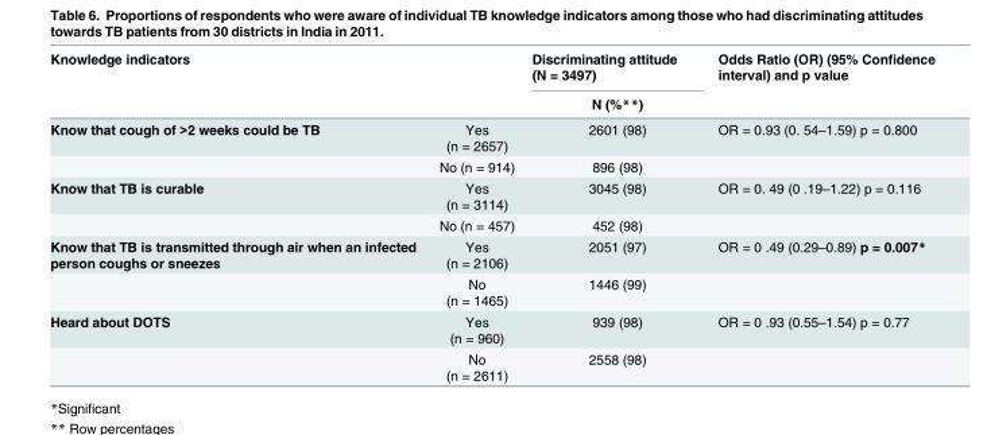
<table><thead><tr><td rowspan="2">Knowledge indicators</td><td rowspan="2"></td><td rowspan="2">Discriminating attitude (N = 3497) N (%**)</td><td rowspan="2">Odds Ratio (OR) (95% Confidence interval) and p value</td></tr><tr></tr></thead><tbody><tr><td rowspan="2">Know that cough of &gt;2 weeks could be TB</td><td>Yes (n = 2657)</td><td>2601 (98)</td><td>OR = 0.93 (0. 54–1.59) p = 0.800</td></tr><tr><td>No (n = 914)</td><td>896 (98)</td><td></td></tr><tr><td rowspan="2">Know that TB is curable</td><td>Yes (n = 3114)</td><td>3045 (98)</td><td>OR = 0. 49 (0 .19–1.22) p = 0.116</td></tr><tr><td>No (n = 457)</td><td>452 (98)</td><td></td></tr><tr><td rowspan="2">Know that TB is transmitted through air when an infected person coughs or sneezes</td><td>Yes (n = 2106)</td><td>2051 (97)</td><td>OR = 0 .49 (0.29–0.89) p = 0.007*</td></tr><tr><td>No (n = 1465)</td><td>1446 (99)</td><td></td></tr><tr><td rowspan="2">Heard about DOTS</td><td>Yes (n = 960)</td><td>939 (98)</td><td>OR = 0 .93 (0.55–1.54) p = 0.77</td></tr><tr><td>No (n = 2611)</td><td>2558 (98)</td><td></td></tr></tbody></table>